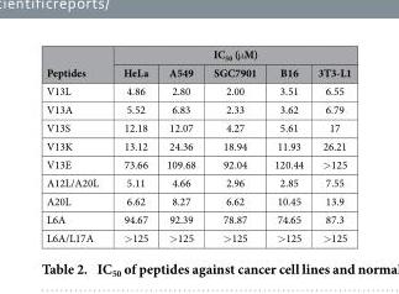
<table><thead><tr><td rowspan="2">Peptides</td><td colspan="5">IC<sub>50</sub> (μ M)</td></tr><tr><td>HeLa</td><td>A549</td><td>SGC7901</td><td>B16</td><td>3T3-L1</td></tr></thead><tbody><tr><td>V13L</td><td>4.86</td><td>2.80</td><td>2.00</td><td>3.51</td><td>6.55</td></tr><tr><td>V13A</td><td>5.52</td><td>6.83</td><td>2.33</td><td>3.62</td><td>6.79</td></tr><tr><td>V13S</td><td>12.18</td><td>12.07</td><td>4.27</td><td>5.61</td><td>17</td></tr><tr><td>V13K</td><td>13.12</td><td>24.36</td><td>18.94</td><td>11.93</td><td>26.21</td></tr><tr><td>V13E</td><td>73.66</td><td>109.68</td><td>92.04</td><td>120.44</td><td>&gt; 125</td></tr><tr><td>A12L/A20L</td><td>5.11</td><td>4.66</td><td>2.96</td><td>2.85</td><td>7.55</td></tr><tr><td>A20L</td><td>6.62</td><td>8.27</td><td>6.62</td><td>10.45</td><td>13.9</td></tr><tr><td>L6A</td><td>94.67</td><td>92.39</td><td>78.87</td><td>74.65</td><td>87.3</td></tr><tr><td>L6A/L17A</td><td>&gt; 125</td><td>&gt; 125</td><td>&gt; 125</td><td>&gt; 125</td><td>&gt; 125</td></tr></tbody></table>